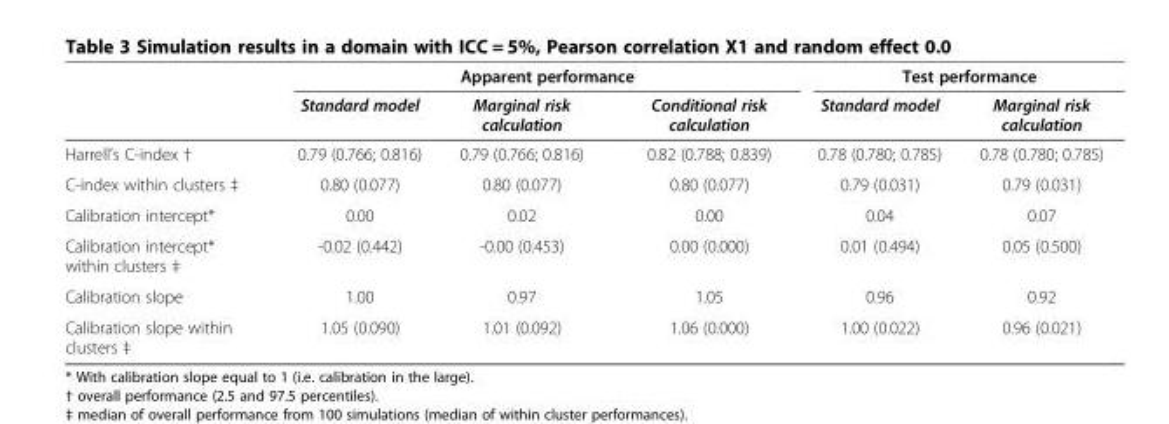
<table><thead><tr><td rowspan="2"></td><td colspan="3">Apparent performance</td><td colspan="2">Test performance</td></tr><tr><td>Standard model</td><td>Marginal risk calculation</td><td>Conditional risk calculation</td><td>Standard model</td><td>Marginal risk calculation</td></tr></thead><tbody><tr><td>Harrell’s C-index †</td><td>0.79 (0.766; 0.816)</td><td>0.79 (0.766; 0.816)</td><td>0.82 (0.788; 0.839)</td><td>0.78 (0.780; 0.785)</td><td>0.78 (0.780; 0.785)</td></tr><tr><td>C-index within clusters ‡</td><td>0.80 (0.077)</td><td>0.80 (0.077)</td><td>0.80 (0.077)</td><td>0.79 (0.031)</td><td>0.79 (0.031)</td></tr><tr><td>Calibration intercept*</td><td>0.00</td><td>0.02</td><td>0.00</td><td>0.04</td><td>0.07</td></tr><tr><td>Calibration intercept* within clusters ‡</td><td>-0.02 (0.442)</td><td>-0.00 (0.453)</td><td>0.00 (0.000)</td><td>0.01 (0.494)</td><td>0.05 (0.500)</td></tr><tr><td>Calibration slope</td><td>1.00</td><td>0.97</td><td>1.05</td><td>0.96</td><td>0.92</td></tr><tr><td>Calibration slope within clusters ‡</td><td>1.05 (0.090)</td><td>1.01 (0.092)</td><td>1.06 (0.000)</td><td>1.00 (0.022)</td><td>0.96 (0.021)</td></tr></tbody></table>